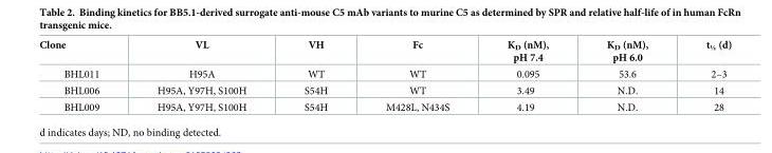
<table><thead><tr><td>Clone</td><td>VL</td><td>VH</td><td>Fc</td><td>K<sub>D</sub> (nM), pH 7.4</td><td>K<sub>D</sub> (nM), pH 6.0</td><td>t<sub>½</sub> (d)</td></tr></thead><tbody><tr><td>BHL011</td><td>H95A</td><td>WT</td><td>WT</td><td>0.095</td><td>53.6</td><td>2–3</td></tr><tr><td>BHL006</td><td>H95A, Y97H, S100H</td><td>S54H</td><td>WT</td><td>3.49</td><td>N.D.</td><td>14</td></tr><tr><td>BHL009</td><td>H95A, Y97H, S100H</td><td>S54H</td><td>M428L, N434S</td><td>4.19</td><td>N.D.</td><td>28</td></tr></tbody></table>